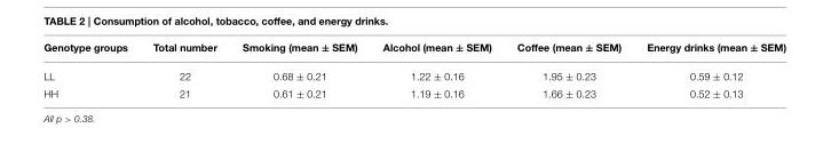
<table><thead><tr><td>Genotype groups</td><td>Total number</td><td>Smoking (mean ± SEM)</td><td>Alcohol (mean ± SEM)</td><td>Coffee (mean ± SEM)</td><td>Energy drinks (mean ± SEM)</td></tr></thead><tbody><tr><td>LL</td><td>22</td><td>0.68 ± 0.21</td><td>1.22 ± 0.16</td><td>1.95 ± 0.23</td><td>0.59 ± 0.12</td></tr><tr><td>HH</td><td>21</td><td>0.61 ± 0.21</td><td>1.19 ± 0.16</td><td>1.66 ± 0.23</td><td>0.52 ± 0.13</td></tr></tbody></table>